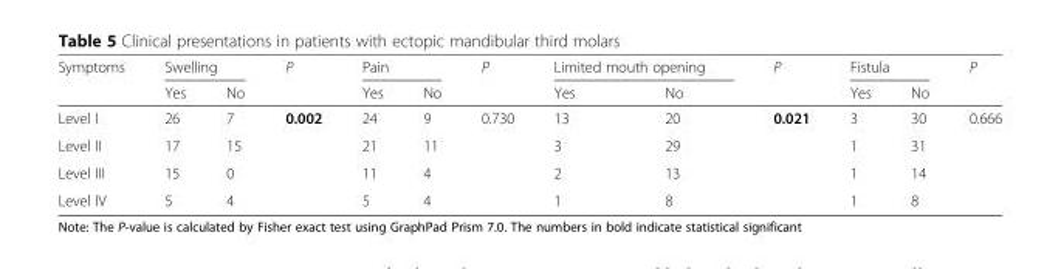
<table><thead><tr><td rowspan="2">Symptoms</td><td colspan="2">Swelling</td><td rowspan="2">P</td><td colspan="2">Pain</td><td rowspan="2">P</td><td colspan="2">Limited mouth opening</td><td rowspan="2">P</td><td colspan="2">Fistula</td><td rowspan="2">P</td></tr><tr><td>Yes</td><td>No</td><td>Yes</td><td>No</td><td>Yes</td><td>No</td><td>Yes</td><td>No</td></tr></thead><tbody><tr><td>Level I</td><td>26</td><td>7</td><td>0.002</td><td>24</td><td>9</td><td>0.730</td><td>13</td><td>20</td><td>0.021</td><td>3</td><td>30</td><td>0.666</td></tr><tr><td>Level II</td><td>17</td><td>15</td><td></td><td>21</td><td>11</td><td></td><td>3</td><td>29</td><td></td><td>1</td><td>31</td><td></td></tr><tr><td>Level III</td><td>15</td><td>0</td><td></td><td>11</td><td>4</td><td></td><td>2</td><td>13</td><td></td><td>1</td><td>14</td><td></td></tr><tr><td>Level IV</td><td>5</td><td>4</td><td></td><td>5</td><td>4</td><td></td><td>1</td><td>8</td><td></td><td>1</td><td>8</td><td></td></tr></tbody></table>